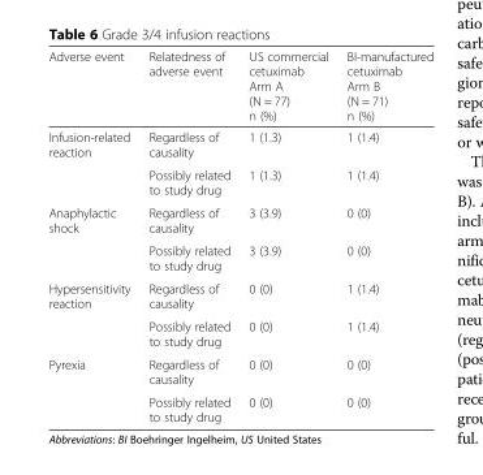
<table><thead><tr><td>Adverse event</td><td>Relatedness of adverse event</td><td>US commercial cetuximab Arm A (N = 77) n (%)</td><td>BI-manufactured cetuximab Arm B (N = 71) n (%)</td></tr></thead><tbody><tr><td rowspan="2">Infusion-related reaction</td><td>Regardless of causality</td><td>1 (1.3)</td><td>1 (1.4)</td></tr><tr><td>Possibly related to study drug</td><td>1 (1.3)</td><td>1 (1.4)</td></tr><tr><td rowspan="2">Anaphylactic shock</td><td>Regardless of causality</td><td>3 (3.9)</td><td>0 (0)</td></tr><tr><td>Possibly related to study drug</td><td>3 (3.9)</td><td>0 (0)</td></tr><tr><td rowspan="2">Hypersensitivity reaction</td><td>Regardless of causality</td><td>0 (0)</td><td>1 (1.4)</td></tr><tr><td>Possibly related to study drug</td><td>0 (0)</td><td>1 (1.4)</td></tr><tr><td rowspan="2">Pyrexia</td><td>Regardless of causality</td><td>0 (0)</td><td>0 (0)</td></tr><tr><td>Possibly related to study drug</td><td>0 (0)</td><td>0 (0)</td></tr></tbody></table>